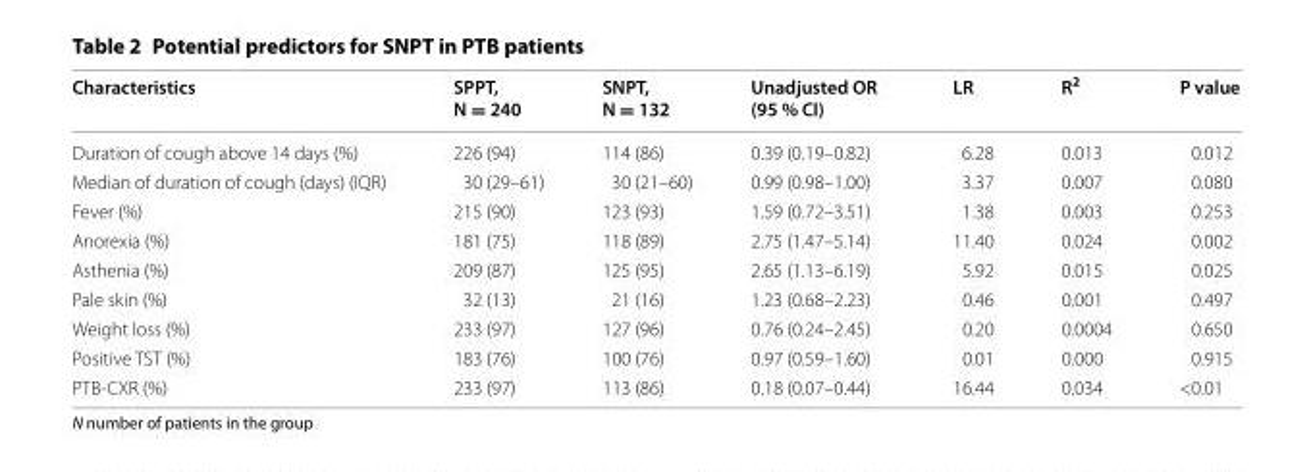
<table><thead><tr><td>Characteristics</td><td>SPPT, N = 240</td><td>SNPT, N = 132</td><td>Unadjusted OR (95 % CI)</td><td>LR</td><td>R<sup>2</sup></td><td>P value</td></tr></thead><tbody><tr><td>Duration of cough above 14 days (%)</td><td>226 (94)</td><td>114 (86)</td><td>0.39 (0.19–0.82)</td><td>6.28</td><td>0.013</td><td>0.012</td></tr><tr><td>Median of duration of cough (days) (IQR)</td><td>30 (29–61)</td><td>30 (21–60)</td><td>0.99 (0.98–1.00)</td><td>3.37</td><td>0.007</td><td>0.080</td></tr><tr><td>Fever (%)</td><td>215 (90)</td><td>123 (93)</td><td>1.59 (0.72–3.51)</td><td>1.38</td><td>0.003</td><td>0.253</td></tr><tr><td>Anorexia (%)</td><td>181 (75)</td><td>118 (89)</td><td>2.75 (1.47–5.14)</td><td>11.40</td><td>0.024</td><td>0.002</td></tr><tr><td>Asthenia (%)</td><td>209 (87)</td><td>125 (95)</td><td>2.65 (1.13–6.19)</td><td>5.92</td><td>0.015</td><td>0.025</td></tr><tr><td>Pale skin (%)</td><td>32 (13)</td><td>21 (16)</td><td>1.23 (0.68–2.23)</td><td>0.46</td><td>0.001</td><td>0.497</td></tr><tr><td>Weight loss (%)</td><td>233 (97)</td><td>127 (96)</td><td>0.76 (0.24–2.45)</td><td>0.20</td><td>0.0004</td><td>0.650</td></tr><tr><td>Positive TST (%)</td><td>183 (76)</td><td>100 (76)</td><td>0.97 (0.59–1.60)</td><td>0.01</td><td>0.000</td><td>0.915</td></tr><tr><td>PTB-CXR (%)</td><td>233 (97)</td><td>113 (86)</td><td>0.18 (0.07–0.44)</td><td>16.44</td><td>0.034</td><td>&lt;0.01</td></tr></tbody></table>